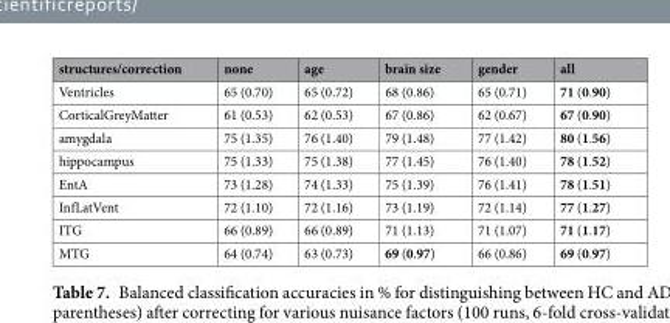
<table><thead><tr><td>structures/correction</td><td>none</td><td>age</td><td>brain size</td><td>gender</td><td>all</td></tr></thead><tbody><tr><td>Ventricles</td><td>65 (0.70)</td><td>65 (0.72)</td><td>68 (0.86)</td><td>65 (0.71)</td><td>71 (0.90)</td></tr><tr><td>CorticalGreyMatter</td><td>61 (0.53)</td><td>62 (0.53)</td><td>67 (0.86)</td><td>62 (0.67)</td><td>67 (0.90)</td></tr><tr><td>amygdala</td><td>75 (1.35)</td><td>76 (1.40)</td><td>79 (1.48)</td><td>77 (1.42)</td><td>80 (1.56)</td></tr><tr><td>hippocampus</td><td>75 (1.33)</td><td>75 (1.38)</td><td>77 (1.45)</td><td>76 (1.40)</td><td>78 (1.52)</td></tr><tr><td>EntA</td><td>73 (1.28)</td><td>74 (1.33)</td><td>75 (1.39)</td><td>76 (1.41)</td><td>78 (1.51)</td></tr><tr><td>InfLatVent</td><td>72 (1.10)</td><td>72 (1.16)</td><td>73 (1.19)</td><td>72 (1.14)</td><td>77 (1.27)</td></tr><tr><td>ITG</td><td>66 (0.89)</td><td>66 (0.89)</td><td>71 (1.13)</td><td>71 (1.07)</td><td>71 (1.17)</td></tr><tr><td>MTG</td><td>64 (0.74)</td><td>63 (0.73)</td><td>69 (0.97)</td><td>66 (0.86)</td><td>69 (0.97)</td></tr></tbody></table>